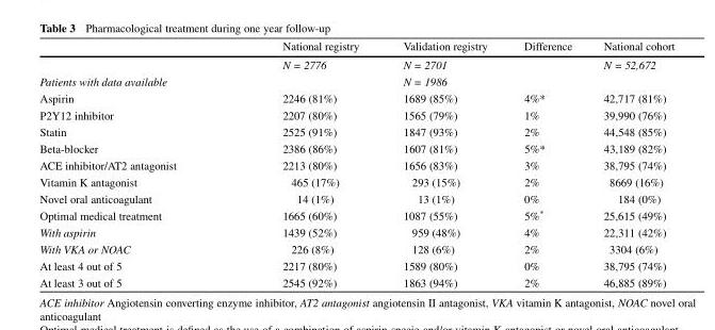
<table><thead><tr><td></td><td>National registry</td><td>Validation registry</td><td>Difference</td><td>National cohort</td></tr></thead><tbody><tr><td></td><td>N = 2776</td><td>N = 2701</td><td></td><td>N = 52,672</td></tr><tr><td>Patients with data available</td><td></td><td>N = 1986</td><td></td><td></td></tr><tr><td>Aspirin</td><td>2246 (81%)</td><td>1689 (85%)</td><td>4%*</td><td>42,717 (81%)</td></tr><tr><td>P2Y12 inhibitor</td><td>2207 (80%)</td><td>1565 (79%)</td><td>1%</td><td>39,990 (76%)</td></tr><tr><td>Statin</td><td>2525 (91%)</td><td>1847 (93%)</td><td>2%</td><td>44,548 (85%)</td></tr><tr><td>Beta-blocker</td><td>2386 (86%)</td><td>1607 (81%)</td><td>5%*</td><td>43,189 (82%)</td></tr><tr><td>ACE inhibitor/AT2 antagonist</td><td>2213 (80%)</td><td>1656 (83%)</td><td>3%</td><td>38,795 (74%)</td></tr><tr><td>Vitamin K antagonist</td><td>465 (17%)</td><td>293 (15%)</td><td>2%</td><td>8669 (16%)</td></tr><tr><td>Novel oral anticoagulant</td><td>14 (1%)</td><td>13 (1%)</td><td>0%</td><td>184 (0%)</td></tr><tr><td>Optimal medical treatment</td><td>1665 (60%)</td><td>1087 (55%)</td><td>5%*</td><td>25,615 (49%)</td></tr><tr><td>With aspirin</td><td>1439 (52%)</td><td>959 (48%)</td><td>4%</td><td>22,311 (42%)</td></tr><tr><td>With VKA or NOAC</td><td>226 (8%)</td><td>128 (6%)</td><td>2%</td><td>3304 (6%)</td></tr><tr><td>At least 4 out of 5</td><td>2217 (80%)</td><td>1589 (80%)</td><td>0%</td><td>38,795 (74%)</td></tr><tr><td>At least 3 out of 5</td><td>2545 (92%)</td><td>1863 (94%)</td><td>2%</td><td>46,885 (89%)</td></tr></tbody></table>